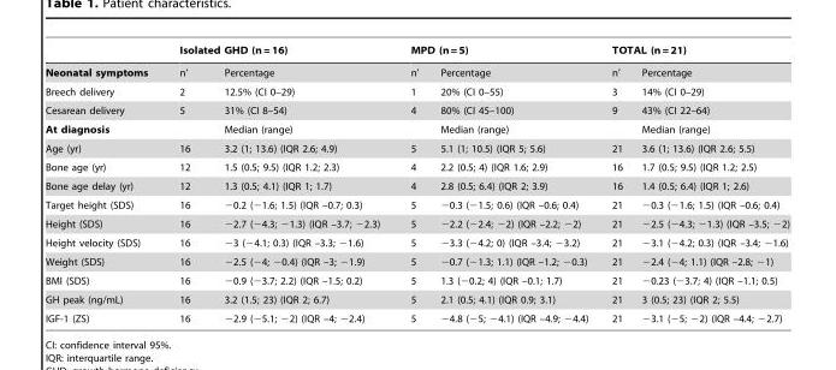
<table><thead><tr><td rowspan="2">Neonatal symptoms</td><td colspan="2">Isolated GHD (n = 16)</td><td colspan="2">MPD (n = 5)</td><td colspan="2">TOTAL (n = 21)</td></tr><tr><td>n’</td><td>Percentage</td><td>n’</td><td>Percentage</td><td>n’</td><td>Percentage</td></tr></thead><tbody><tr><td>Breech delivery</td><td>2</td><td>12.5% (CI 0–29)</td><td>1</td><td>20% (CI 0–55)</td><td>3</td><td>14% (CI 0–29)</td></tr><tr><td>Cesarean delivery</td><td>5</td><td>31% (CI 8–54)</td><td>4</td><td>80% (CI 45–100)</td><td>9</td><td>43% (CI 22–64)</td></tr><tr><td>At diagnosis</td><td></td><td>Median (range)</td><td></td><td>Median (range)</td><td></td><td>Median (range)</td></tr><tr><td>Age (yr)</td><td>16</td><td>3.2 (1; 13.6) (IQR 2.6; 4.9)</td><td>5</td><td>5.1 (1; 10.5) (IQR 5; 5.6)</td><td>21</td><td>3.6 (1; 13.6) (IQR 2.6; 5.5)</td></tr><tr><td>Bone age (yr)</td><td>12</td><td>1.5 (0.5; 9.5) (IQR 1.2; 2.3)</td><td>4</td><td>2.2 (0.5; 4) (IQR 1.6; 2.9)</td><td>16</td><td>1.7 (0.5; 9.5) (IQR 1.2; 2.5)</td></tr><tr><td>Bone age delay (yr)</td><td>12</td><td>1.3 (0.5; 4.1) (IQR 1; 1.7)</td><td>4</td><td>2.8 (0.5; 6.4) (IQR 2; 3.9)</td><td>16</td><td>1.4 (0.5; 6.4) (IQR 1; 2.6)</td></tr><tr><td>Target height (SDS)</td><td>16</td><td>−0.2 (−1.6; 1.5) (IQR –0.7; 0.3)</td><td>5</td><td>−0.3 (−1.5; 0.6) (IQR –0.6; 0.4)</td><td>21</td><td>−0.3 (−1.6; 1.5) (IQR –0.6; 0.4)</td></tr><tr><td>Height (SDS)</td><td>16</td><td>−2.7 (−4.3; −1.3) (IQR –3.7; −2.3)</td><td>5</td><td>−2.2 (−2.4; −2) (IQR –2.2; −2)</td><td>21</td><td>−2.5 (−4.3; −1.3) (IQR –3.5; −2)</td></tr><tr><td>Height velocity (SDS)</td><td>16</td><td>−3 (−4.1; 0.3) (IQR –3.3; −1.6)</td><td>5</td><td>−3.3 (−4.2; 0) (IQR –3.4; −3.2)</td><td>21</td><td>−3.1 (−4.2; 0.3) (IQR –3.4; −1.6)</td></tr><tr><td>Weight (SDS)</td><td>16</td><td>−2.5 (−4; −0.4) (IQR –3; −1.9)</td><td>5</td><td>−0.7 (−1.3; 1.1) (IQR –1.2; −0.3)</td><td>21</td><td>−2.4 (−4; 1.1) (IQR –2.8; −1)</td></tr><tr><td>BMI (SDS)</td><td>16</td><td>−0.9 (−3.7; 2.2) (IQR –1.5; 0.2)</td><td>5</td><td>1.3 (−0.2; 4) (IQR –0.1; 1.7)</td><td>21</td><td>−0.23 (−3.7; 4) (IQR –1.1; 0.5)</td></tr><tr><td>GH peak (ng/mL)</td><td>16</td><td>3.2 (1.5; 23) (IQR 2; 6.7)</td><td>5</td><td>2.1 (0.5; 4.1) (IQR 0.9; 3.1)</td><td>21</td><td>3 (0.5; 23) (IQR 2; 5.5)</td></tr><tr><td>IGF-1 (ZS)</td><td>16</td><td>−2.9 (−5.1; −2) (IQR –4; −2.4)</td><td>5</td><td>−4.8 (−5; −4.1) (IQR –4.9; −4.4)</td><td>21</td><td>−3.1 (−5; −2) (IQR –4.4; −2.7)</td></tr></tbody></table>